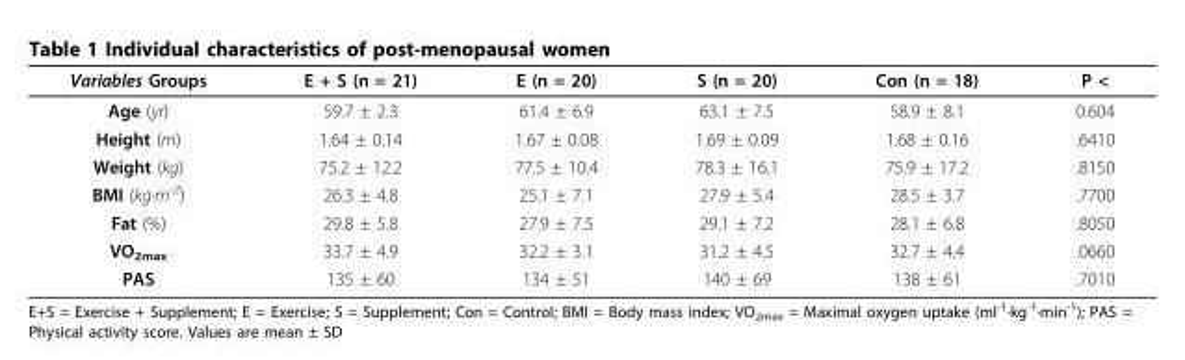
<table><thead><tr><td>Variables Groups</td><td>E + S (n = 21)</td><td>E (n = 20)</td><td>S (n = 20)</td><td>Con (n = 18)</td><td>P &lt;</td></tr></thead><tbody><tr><td>Age (yr)</td><td>59.7 ± 2.3</td><td>61.4 ± 6.9</td><td>63.1 ± 7.5</td><td>58.9 ± 8.1</td><td>0.604</td></tr><tr><td>Height (m)</td><td>1.64 ± 0.14</td><td>1.67 ± 0.08</td><td>1.69 ± 0.09</td><td>1.68 ± 0.16</td><td>.6410</td></tr><tr><td>Weight (kg)</td><td>75.2 ± 12.2</td><td>77.5 ± 10.4</td><td>78.3 ± 16.1</td><td>75.9 ± 17.2</td><td>.8150</td></tr><tr><td>BMI (kg·m<sup>-2</sup>)</td><td>26.3 ± 4.8</td><td>25.1 ± 7.1</td><td>27.9 ± 5.4</td><td>28.5 ± 3.7</td><td>.7700</td></tr><tr><td>Fat (%)</td><td>29.8 ± 5.8</td><td>27.9 ± 7.5</td><td>29.1 ± 7.2</td><td>28.1 ± 6.8</td><td>.8050</td></tr><tr><td>VO<sub>2max</sub></td><td>33.7 ± 4.9</td><td>32.2 ± 3.1</td><td>31.2 ± 4.5</td><td>32.7 ± 4.4</td><td>.0660</td></tr><tr><td>PAS</td><td>135 ± 60</td><td>134 ± 51</td><td>140 ± 69</td><td>138 ± 61</td><td>.7010</td></tr></tbody></table>